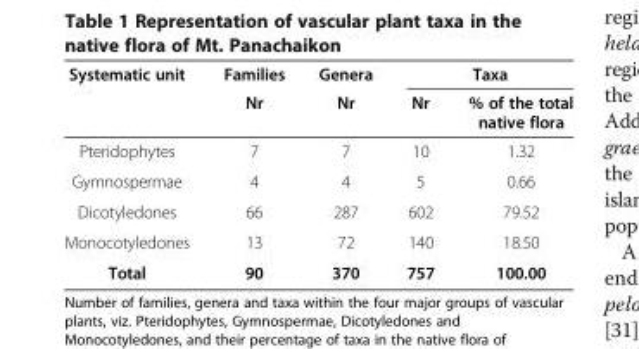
<table><thead><tr><td rowspan="2">Systematic unit</td><td rowspan="2">Families Nr</td><td rowspan="2">Genera Nr</td><td colspan="2">Taxa</td></tr><tr><td>Nr</td><td>% of the total native flora</td></tr></thead><tbody><tr><td>Pteridophytes</td><td>7</td><td>7</td><td>10</td><td>1.32</td></tr><tr><td>Gymnospermae</td><td>4</td><td>4</td><td>5</td><td>0.66</td></tr><tr><td>Dicotyledones</td><td>66</td><td>287</td><td>602</td><td>79.52</td></tr><tr><td>Monocotyledones</td><td>13</td><td>72</td><td>140</td><td>18.50</td></tr><tr><td>Total</td><td>90</td><td>370</td><td>757</td><td>100.00</td></tr></tbody></table>